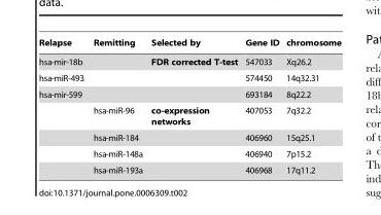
<table><thead><tr><td>Relapse</td><td>Remitting</td><td>Selected by</td><td>Gene ID</td><td>chromosome</td></tr></thead><tbody><tr><td>hsa-mir-18b</td><td></td><td>FDR corrected T-test</td><td>547033</td><td>Xq26.2</td></tr><tr><td>hsa-miR-493</td><td></td><td></td><td>574450</td><td>14q32.31</td></tr><tr><td rowspan="5">hsa-mir-599</td><td></td><td></td><td>693184</td><td>8q22.2</td></tr><tr><td>hsa-miR-96</td><td>co-expression networks</td><td>407053</td><td>7q32.2</td></tr><tr><td>hsa-miR-184</td><td></td><td>406960</td><td>15q25.1</td></tr><tr><td>hsa-miR-148a</td><td></td><td>406940</td><td>7p15.2</td></tr><tr><td>hsa-miR-193a</td><td></td><td>406968</td><td>17q11.2</td></tr></tbody></table>